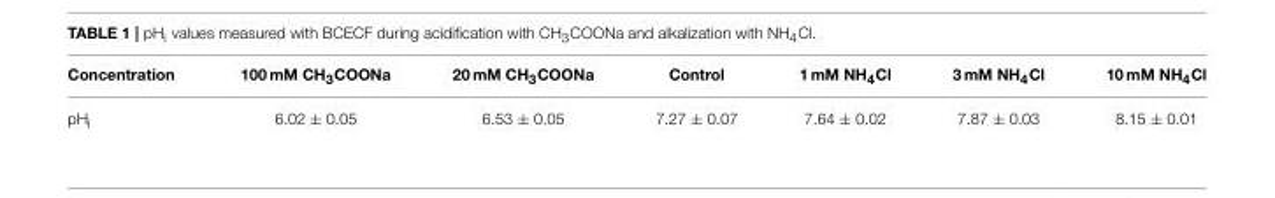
<table><thead><tr><td>Concentration</td><td>100 mM CH<sub>3</sub>COONa</td><td>20 mM CH<sub>3</sub>COONa</td><td>Control</td><td>1 mM NH<sub>4</sub>Cl</td><td>3 mM NH<sub>4</sub>Cl</td><td>10 mM NH<sub>4</sub>Cl</td></tr></thead><tbody><tr><td>pH<sub>i</sub></td><td>6.02 ± 0.05</td><td>6.53 ± 0.05</td><td>7.27 ± 0.07</td><td>7.64 ± 0.02</td><td>7.87 ± 0.03</td><td>8.15 ± 0.01</td></tr></tbody></table>